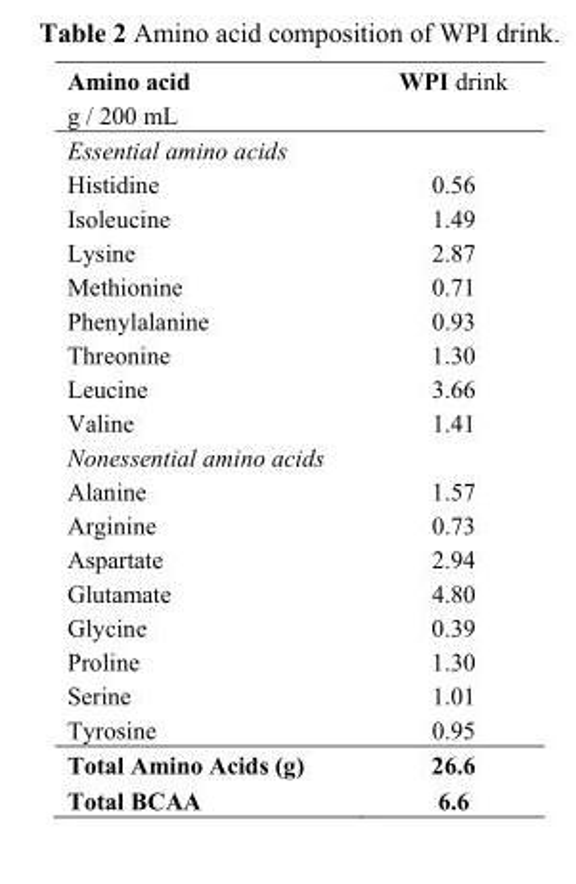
<table><thead><tr><td>Amino acid g / 200 mL</td><td>WPI drink</td></tr></thead><tbody><tr><td colspan="2">Essential amino acids</td></tr><tr><td>Histidine</td><td>0.56</td></tr><tr><td>Isoleucine</td><td>1.49</td></tr><tr><td>Lysine</td><td>2.87</td></tr><tr><td>Methionine</td><td>0.71</td></tr><tr><td>Phenylalanine</td><td>0.93</td></tr><tr><td>Threonine</td><td>1.30</td></tr><tr><td>Leucine</td><td>3.66</td></tr><tr><td>Valine</td><td>1.41</td></tr><tr><td colspan="2">Nonessential amino acids</td></tr><tr><td>Alanine</td><td>1.57</td></tr><tr><td>Arginine</td><td>0.73</td></tr><tr><td>Aspartate</td><td>2.94</td></tr><tr><td>Glutamate</td><td>4.80</td></tr><tr><td>Glycine</td><td>0.39</td></tr><tr><td>Proline</td><td>1.30</td></tr><tr><td>Serine</td><td>1.01</td></tr><tr><td>Tyrosine</td><td>0.95</td></tr><tr><td>Total Amino Acids (g)</td><td>26.6</td></tr><tr><td>Total BCAA</td><td>6.6</td></tr></tbody></table>